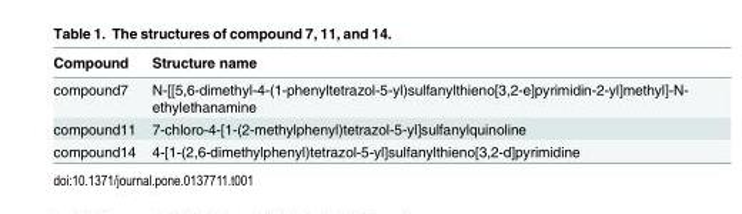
<table><thead><tr><td>Compound</td><td>Structure name</td></tr></thead><tbody><tr><td>compound7</td><td>N-[[5,6-dimethyl-4-(1-phenyltetrazol-5-yl)sulfanylthieno[3,2-e]pyrimidin-2-yl]methyl]-N- ethylethanamine</td></tr><tr><td>compound11</td><td>7-chloro-4-[1-(2-methylphenyl)tetrazol-5-yl]sulfanylquinoline</td></tr><tr><td>compound14</td><td>4-[1-(2,6-dimethylphenyl)tetrazol-5-yl]sulfanylthieno[3,2-d]pyrimidine</td></tr></tbody></table>